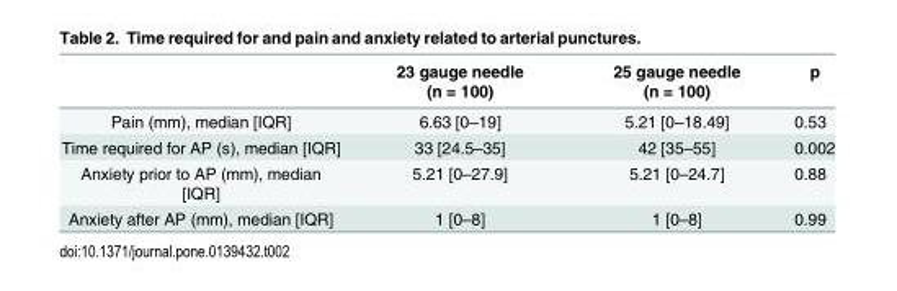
<table><thead><tr><td></td><td>23 gauge needle (n = 100)</td><td>25 gauge needle (n = 100)</td><td>p</td></tr></thead><tbody><tr><td>Pain (mm), median [IQR]</td><td>6.63 [0–19]</td><td>5.21 [0–18.49]</td><td>0.53</td></tr><tr><td>Time required for AP (s), median [IQR]</td><td>33 [24.5–35]</td><td>42 [35–55]</td><td>0.002</td></tr><tr><td>Anxiety prior to AP (mm), median [IQR]</td><td>5.21 [0–27.9]</td><td>5.21 [0–24.7]</td><td>0.88</td></tr><tr><td>Anxiety after AP (mm), median [IQR]</td><td>1 [0–8]</td><td>1 [0–8]</td><td>0.99</td></tr></tbody></table>